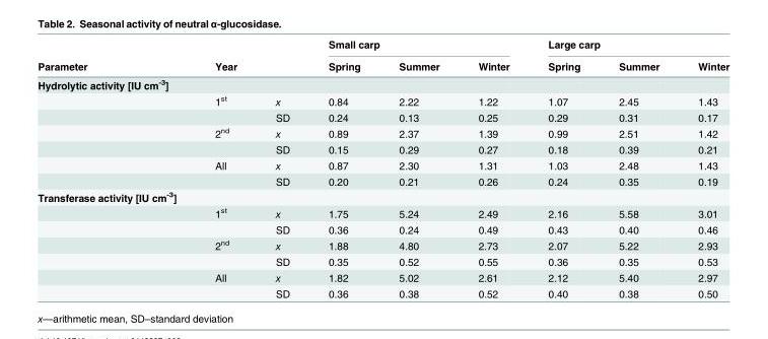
<table><thead><tr><td rowspan="2">Parameter</td><td rowspan="2">Year</td><td rowspan="2"></td><td colspan="3">Small carp</td><td colspan="3">Large carp</td></tr><tr><td>Spring</td><td>Summer</td><td>Winter</td><td>Spring</td><td>Summer</td><td>Winter</td></tr></thead><tbody><tr><td colspan="9">Hydrolytic activity [IU cm<sup>-3</sup>]</td></tr><tr><td></td><td>1<sup>st</sup></td><td>x</td><td>0.84</td><td>2.22</td><td>1.22</td><td>1.07</td><td>2.45</td><td>1.43</td></tr><tr><td></td><td></td><td>SD</td><td>0.24</td><td>0.13</td><td>0.25</td><td>0.29</td><td>0.31</td><td>0.17</td></tr><tr><td></td><td>2<sup>nd</sup></td><td>x</td><td>0.89</td><td>2.37</td><td>1.39</td><td>0.99</td><td>2.51</td><td>1.42</td></tr><tr><td></td><td></td><td>SD</td><td>0.15</td><td>0.29</td><td>0.27</td><td>0.18</td><td>0.39</td><td>0.21</td></tr><tr><td></td><td>All</td><td>x</td><td>0.87</td><td>2.30</td><td>1.31</td><td>1.03</td><td>2.48</td><td>1.43</td></tr><tr><td></td><td></td><td>SD</td><td>0.20</td><td>0.21</td><td>0.26</td><td>0.24</td><td>0.35</td><td>0.19</td></tr><tr><td colspan="9">Transferase activity [IU cm<sup>-3</sup>]</td></tr><tr><td></td><td>1<sup>st</sup></td><td>x</td><td>1.75</td><td>5.24</td><td>2.49</td><td>2.16</td><td>5.58</td><td>3.01</td></tr><tr><td></td><td></td><td>SD</td><td>0.36</td><td>0.24</td><td>0.49</td><td>0.43</td><td>0.40</td><td>0.46</td></tr><tr><td></td><td>2<sup>nd</sup></td><td>x</td><td>1.88</td><td>4.80</td><td>2.73</td><td>2.07</td><td>5.22</td><td>2.93</td></tr><tr><td></td><td></td><td>SD</td><td>0.35</td><td>0.52</td><td>0.55</td><td>0.36</td><td>0.35</td><td>0.53</td></tr><tr><td></td><td>All</td><td>x</td><td>1.82</td><td>5.02</td><td>2.61</td><td>2.12</td><td>5.40</td><td>2.97</td></tr><tr><td></td><td></td><td>SD</td><td>0.36</td><td>0.38</td><td>0.52</td><td>0.40</td><td>0.38</td><td>0.50</td></tr></tbody></table>